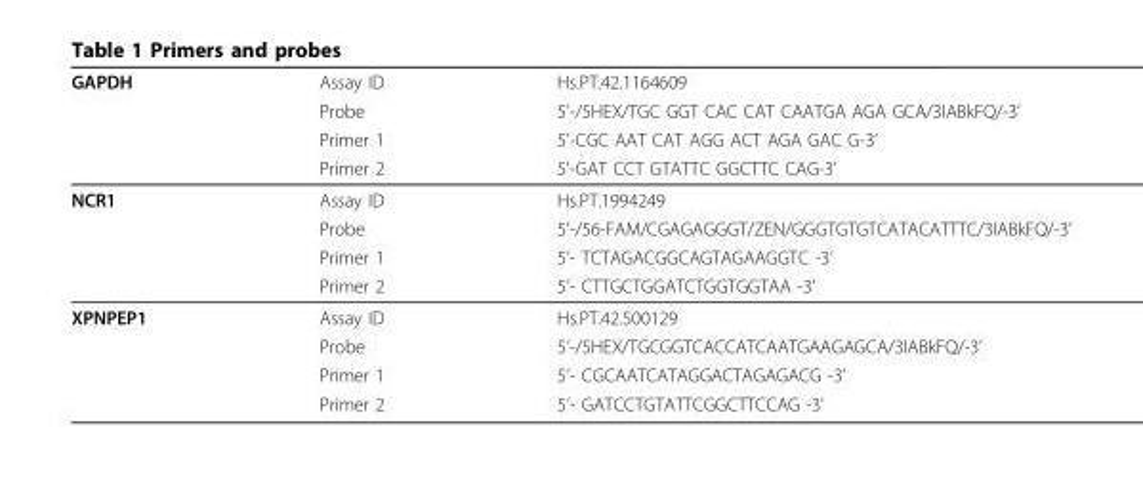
<table><thead><tr><td rowspan="4">GAPDH</td><td rowspan="4">Assay ID Probe Primer 1 Primer 2</td><td rowspan="4">Hs.PT.42.1164609 5’-/5HEX/TGC GGT CAC CAT CAATGA AGA GCA/3IABkFQ/-3’ 5’-CGC AAT CAT AGG ACT AGA GAC G-3’ 5’-GAT CCT GTATTC GGCTTC CAG-3’</td></tr><tr></tr><tr></tr><tr></tr></thead><tbody><tr><td rowspan="4">NCR1</td><td>Assay ID</td><td>Hs.PT.1994249</td></tr><tr><td>Probe</td><td>5’-/56-FAM/CGAGAGGGT/ZEN/GGGTGTGTCATACATTTC/3IABkFQ/-3’</td></tr><tr><td>Primer 1</td><td>5’- TCTAGACGGCAGTAGAAGGTC -3’</td></tr><tr><td>Primer 2</td><td>5’- CTTGCTGGATCTGGTGGTAA -3’</td></tr><tr><td rowspan="4">XPNPEP1</td><td>Assay ID</td><td>Hs.PT.42.500129</td></tr><tr><td>Probe</td><td>5’-/5HEX/TGCGGTCACCATCAATGAAGAGCA/3IABkFQ/-3’</td></tr><tr><td>Primer 1</td><td>5’- CGCAATCATAGGACTAGAGACG -3’</td></tr><tr><td>Primer 2</td><td>5’- GATCCTGTATTCGGCTTCCAG -3’</td></tr></tbody></table>